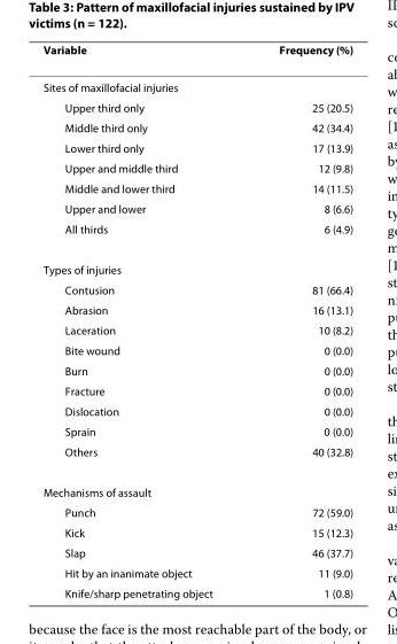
<table><thead><tr><td>Variable</td><td>Frequency (%)</td></tr></thead><tbody><tr><td colspan="2">Sites of maxillofacial injuries</td></tr><tr><td>Upper third only</td><td>25 (20.5)</td></tr><tr><td>Middle third only</td><td>42 (34.4)</td></tr><tr><td>Lower third only</td><td>17 (13.9)</td></tr><tr><td>Upper and middle third</td><td>12 (9.8)</td></tr><tr><td>Middle and lower third</td><td>14 (11.5)</td></tr><tr><td>Upper and lower</td><td>8 (6.6)</td></tr><tr><td>All thirds</td><td>6 (4.9)</td></tr><tr><td colspan="2">Types of injuries</td></tr><tr><td>Contusion</td><td>81 (66.4)</td></tr><tr><td>Abrasion</td><td>16 (13.1)</td></tr><tr><td>Laceration</td><td>10 (8.2)</td></tr><tr><td>Bite wound</td><td>0 (0.0)</td></tr><tr><td>Burn</td><td>0 (0.0)</td></tr><tr><td>Fracture</td><td>0 (0.0)</td></tr><tr><td>Dislocation</td><td>0 (0.0)</td></tr><tr><td>Sprain</td><td>0 (0.0)</td></tr><tr><td>Others</td><td>40 (32.8)</td></tr><tr><td colspan="2">Mechanisms of assault</td></tr><tr><td>Punch</td><td>72 (59.0)</td></tr><tr><td>Kick</td><td>15 (12.3)</td></tr><tr><td>Slap</td><td>46 (37.7)</td></tr><tr><td>Hit by an inanimate object</td><td>11 (9.0)</td></tr><tr><td>Knife/sharp penetrating object</td><td>1 (0.8)</td></tr></tbody></table>